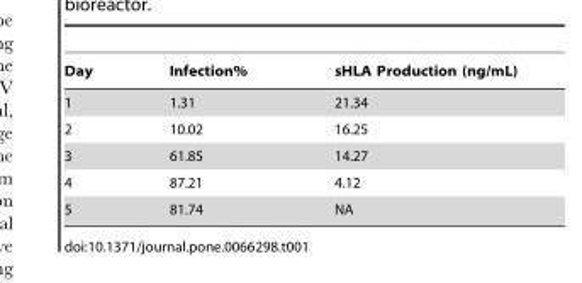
<table><thead><tr><td>Day</td><td>Infection%</td><td>sHLA Production (ng/mL)</td></tr></thead><tbody><tr><td>1</td><td>1.31</td><td>21.34</td></tr><tr><td>2</td><td>10.02</td><td>16.25</td></tr><tr><td>3</td><td>61.85</td><td>14.27</td></tr><tr><td>4</td><td>87.21</td><td>4.12</td></tr><tr><td>5</td><td>81.74</td><td>NA</td></tr></tbody></table>